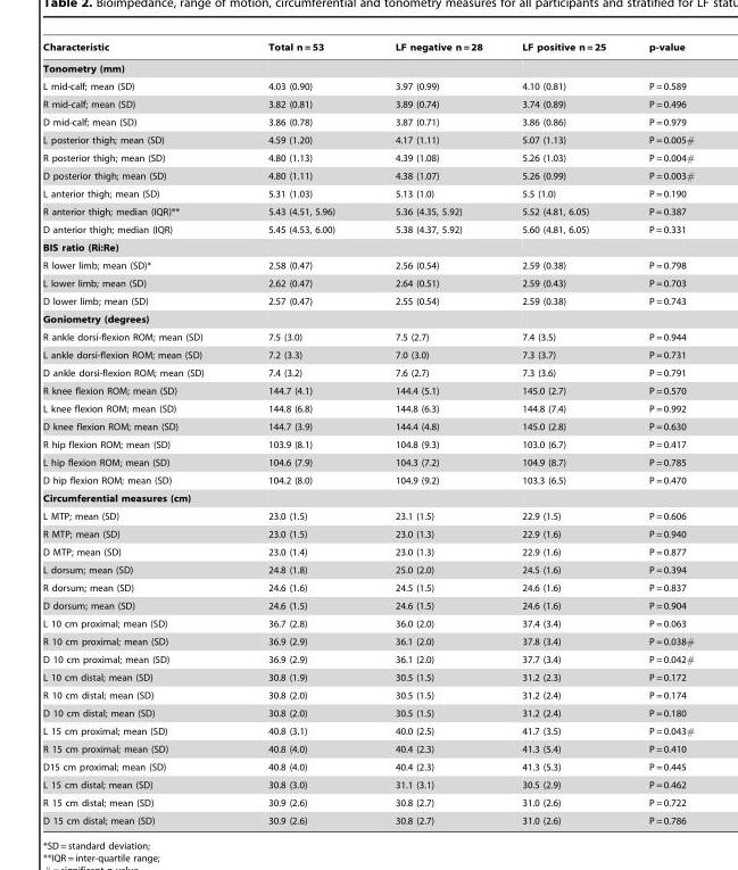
<table><thead><tr><td>Characteristic</td><td>Total n = 53</td><td>LF negative n = 28</td><td>LF positive n = 25</td><td>p-value</td></tr></thead><tbody><tr><td colspan="5">Tonometry (mm)</td></tr><tr><td>L mid-calf; mean (SD)</td><td>4.03 (0.90)</td><td>3.97 (0.99)</td><td>4.10 (0.81)</td><td>P = 0.589</td></tr><tr><td>R mid-calf; mean (SD)</td><td>3.82 (0.81)</td><td>3.89 (0.74)</td><td>3.74 (0.89)</td><td>P = 0.496</td></tr><tr><td>D mid-calf; mean (SD)</td><td>3.86 (0.78)</td><td>3.87 (0.71)</td><td>3.86 (0.86)</td><td>P = 0.979</td></tr><tr><td>L posterior thigh; mean (SD)</td><td>4.59 (1.20)</td><td>4.17 (1.11)</td><td>5.07 (1.13)</td><td>P = 0.005#</td></tr><tr><td>R posterior thigh; mean (SD)</td><td>4.80 (1.13)</td><td>4.39 (1.08)</td><td>5.26 (1.03)</td><td>P = 0.004#</td></tr><tr><td>D posterior thigh; mean (SD)</td><td>4.80 (1.11)</td><td>4.38 (1.07)</td><td>5.26 (0.99)</td><td>P = 0.003#</td></tr><tr><td>L anterior thigh; mean (SD)</td><td>5.31 (1.03)</td><td>5.13 (1.0)</td><td>5.5 (1.0)</td><td>P = 0.190</td></tr><tr><td>R anterior thigh; median (IQR)**</td><td>5.43 (4.51, 5.96)</td><td>5.36 (4.35, 5.92)</td><td>5.52 (4.81, 6.05)</td><td>P = 0.387</td></tr><tr><td>D anterior thigh; median (IQR)</td><td>5.45 (4.53, 6.00)</td><td>5.38 (4.37, 5.92)</td><td>5.60 (4.81, 6.05)</td><td>P = 0.331</td></tr><tr><td colspan="5">BIS ratio (Ri:Re)</td></tr><tr><td>R lower limb; mean (SD)*</td><td>2.58 (0.47)</td><td>2.56 (0.54)</td><td>2.59 (0.38)</td><td>P = 0.798</td></tr><tr><td>L lower limb; mean (SD)</td><td>2.62 (0.47)</td><td>2.64 (0.51)</td><td>2.59 (0.43)</td><td>P = 0.703</td></tr><tr><td>D lower limb; mean (SD)</td><td>2.57 (0.47)</td><td>2.55 (0.54)</td><td>2.59 (0.38)</td><td>P = 0.743</td></tr><tr><td colspan="5">Goniometry (degrees)</td></tr><tr><td>R ankle dorsi-flexion ROM; mean (SD)</td><td>7.5 (3.0)</td><td>7.5 (2.7)</td><td>7.4 (3.5)</td><td>P = 0.944</td></tr><tr><td>L ankle dorsi-flexion ROM; mean (SD)</td><td>7.2 (3.3)</td><td>7.0 (3.0)</td><td>7.3 (3.7)</td><td>P = 0.731</td></tr><tr><td>D ankle dorsi-flexion ROM; mean (SD)</td><td>7.4 (3.2)</td><td>7.6 (2.7)</td><td>7.3 (3.6)</td><td>P = 0.791</td></tr><tr><td>R knee flexion ROM; mean (SD)</td><td>144.7 (4.1)</td><td>144.4 (5.1)</td><td>145.0 (2.7)</td><td>P = 0.570</td></tr><tr><td>L knee flexion ROM; mean (SD)</td><td>144.8 (6.8)</td><td>144.8 (6.3)</td><td>144.8 (7.4)</td><td>P = 0.992</td></tr><tr><td>D knee flexion ROM; mean (SD)</td><td>144.7 (3.9)</td><td>144.4 (4.8)</td><td>145.0 (2.8)</td><td>P = 0.630</td></tr><tr><td>R hip flexion ROM; mean (SD)</td><td>103.9 (8.1)</td><td>104.8 (9.3)</td><td>103.0 (6.7)</td><td>P = 0.417</td></tr><tr><td>L hip flexion ROM; mean (SD)</td><td>104.6 (7.9)</td><td>104.3 (7.2)</td><td>104.9 (8.7)</td><td>P = 0.785</td></tr><tr><td>D hip flexion ROM; mean (SD)</td><td>104.2 (8.0)</td><td>104.9 (9.2)</td><td>103.3 (6.5)</td><td>P = 0.470</td></tr><tr><td colspan="5">Circumferential measures (cm)</td></tr><tr><td>L MTP; mean (SD)</td><td>23.0 (1.5)</td><td>23.1 (1.5)</td><td>22.9 (1.5)</td><td>P = 0.606</td></tr><tr><td>R MTP; mean (SD)</td><td>23.0 (1.5)</td><td>23.0 (1.3)</td><td>22.9 (1.6)</td><td>P = 0.940</td></tr><tr><td>D MTP; mean (SD)</td><td>23.0 (1.4)</td><td>23.0 (1.3)</td><td>22.9 (1.6)</td><td>P = 0.877</td></tr><tr><td>L dorsum; mean (SD)</td><td>24.8 (1.8)</td><td>25.0 (2.0)</td><td>24.5 (1.6)</td><td>P = 0.394</td></tr><tr><td>R dorsum; mean (SD)</td><td>24.6 (1.6)</td><td>24.5 (1.5)</td><td>24.6 (1.6)</td><td>P = 0.837</td></tr><tr><td>D dorsum; mean (SD)</td><td>24.6 (1.5)</td><td>24.6 (1.5)</td><td>24.6 (1.6)</td><td>P = 0.904</td></tr><tr><td>L 10 cm proximal; mean (SD)</td><td>36.7 (2.8)</td><td>36.0 (2.0)</td><td>37.4 (3.4)</td><td>P = 0.063</td></tr><tr><td>R 10 cm proximal; mean (SD)</td><td>36.9 (2.9)</td><td>36.1 (2.0)</td><td>37.8 (3.4)</td><td>P = 0.038#</td></tr><tr><td>D 10 cm proximal; mean (SD)</td><td>36.9 (2.9)</td><td>36.1 (2.0)</td><td>37.7 (3.4)</td><td>P = 0.042#</td></tr><tr><td>L 10 cm distal; mean (SD)</td><td>30.8 (1.9)</td><td>30.5 (1.5)</td><td>31.2 (2.3)</td><td>P = 0.172</td></tr><tr><td>R 10 cm distal; mean (SD)</td><td>30.8 (2.0)</td><td>30.5 (1.5)</td><td>31.2 (2.4)</td><td>P = 0.174</td></tr><tr><td>D 10 cm distal; mean (SD)</td><td>30.8 (2.0)</td><td>30.5 (1.5)</td><td>31.2 (2.4)</td><td>P = 0.180</td></tr><tr><td>L 15 cm proximal; mean (SD)</td><td>40.8 (3.1)</td><td>40.0 (2.5)</td><td>41.7 (3.5)</td><td>P = 0.043#</td></tr><tr><td>R 15 cm proximal; mean (SD)</td><td>40.8 (4.0)</td><td>40.4 (2.3)</td><td>41.3 (5.4)</td><td>P = 0.410</td></tr><tr><td>D15 cm proximal; mean (SD)</td><td>40.8 (4.0)</td><td>40.4 (2.3)</td><td>41.3 (5.3)</td><td>P = 0.445</td></tr><tr><td>L 15 cm distal; mean (SD)</td><td>30.8 (3.0)</td><td>31.1 (3.1)</td><td>30.5 (2.9)</td><td>P = 0.462</td></tr><tr><td>R 15 cm distal; mean (SD)</td><td>30.9 (2.6)</td><td>30.8 (2.7)</td><td>31.0 (2.6)</td><td>P = 0.722</td></tr><tr><td>D 15 cm distal; mean (SD)</td><td>30.9 (2.6)</td><td>30.8 (2.7)</td><td>31.0 (2.6)</td><td>P = 0.786</td></tr></tbody></table>